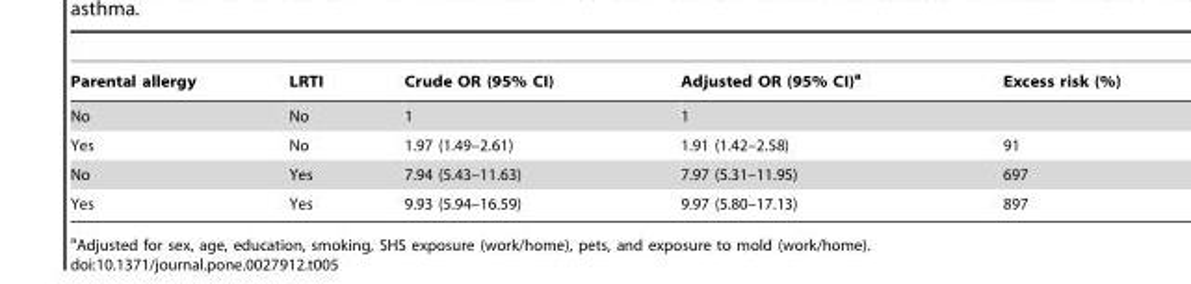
<table><thead><tr><td>Parental allergy</td><td>LRTI</td><td>Crude OR (95% CI)</td><td>Adjusted OR (95% CI)<sup>a</sup></td><td>Excess risk (%)</td></tr></thead><tbody><tr><td>No</td><td>No</td><td>1</td><td>1</td><td></td></tr><tr><td>Yes</td><td>No</td><td>1.97 (1.49–2.61)</td><td>1.91 (1.42–2.58)</td><td>91</td></tr><tr><td>No</td><td>Yes</td><td>7.94 (5.43–11.63)</td><td>7.97 (5.31–11.95)</td><td>697</td></tr><tr><td>Yes</td><td>Yes</td><td>9.93 (5.94–16.59)</td><td>9.97 (5.80–17.13)</td><td>897</td></tr></tbody></table>